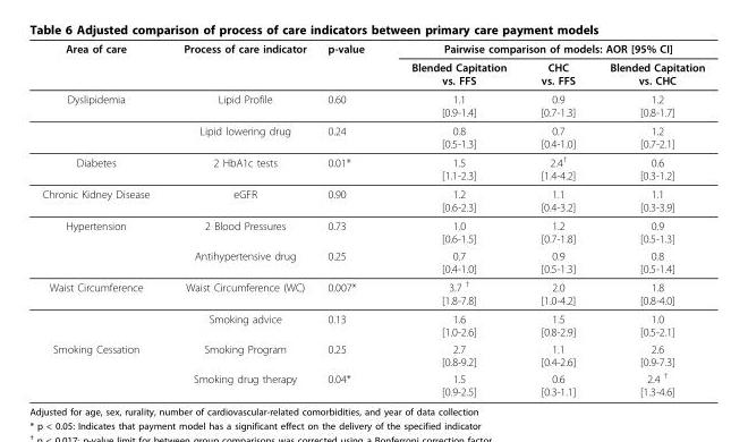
<table><thead><tr><td rowspan="2">Area of care</td><td rowspan="2">Process of care indicator</td><td rowspan="2">p-value</td><td colspan="3">Pairwise comparison of models: AOR [95% CI]</td></tr><tr><td>Blended Capitation vs. FFS</td><td>CHC vs. FFS</td><td>Blended Capitation vs. CHC</td></tr></thead><tbody><tr><td rowspan="2">Dyslipidemia</td><td>Lipid Profile</td><td>0.60</td><td>1.1 [0.9-1.4]</td><td>0.9 [0.7-1.3]</td><td>1.2 [0.8-1.7]</td></tr><tr><td>Lipid lowering drug</td><td>0.24</td><td>0.8 [0.5-1.3]</td><td>0.7 [0.4-1.0]</td><td>1.2 [0.7-2.1]</td></tr><tr><td>Diabetes</td><td>2 HbA1c tests</td><td>0.01*</td><td>1.5 [1.1-2.3]</td><td>2.4<sup>†</sup> [1.4-4.2]</td><td>0.6 [0.3-1.2]</td></tr><tr><td>Chronic Kidney Disease</td><td>eGFR</td><td>0.90</td><td>1.2 [0.6-2.3]</td><td>1.1 [0.4-3.2]</td><td>1.1 [0.3-3.9]</td></tr><tr><td rowspan="2">Hypertension</td><td>2 Blood Pressures</td><td>0.73</td><td>1.0 [0.6-1.5]</td><td>1.2 [0.7-1.8]</td><td>0.9 [0.5-1.3]</td></tr><tr><td>Antihypertensive drug</td><td>0.25</td><td>0.7 [0.4-1.0]</td><td>0.9 [0.5-1.3]</td><td>0.8 [0.5-1.4]</td></tr><tr><td rowspan="2">Waist Circumference</td><td>Waist Circumference (WC)</td><td>0.007*</td><td>3.7 <sup>†</sup> [1.8-7.8]</td><td>2.0 [1.0-4.2]</td><td>1.8 [0.8-4.0]</td></tr><tr><td>Smoking advice</td><td>0.13</td><td>1.6 [1.0-2.6]</td><td>1.5 [0.8-2.9]</td><td>1.0 [0.5-2.1]</td></tr><tr><td rowspan="2">Smoking Cessation</td><td>Smoking Program</td><td>0.25</td><td>2.7 [0.8-9.2]</td><td>1.1 [0.4-2.6]</td><td>2.6 [0.9-7.3]</td></tr><tr><td>Smoking drug therapy</td><td>0.04*</td><td>1.5 [0.9-2.5]</td><td>0.6 [0.3-1.1]</td><td>2.4 <sup>†</sup> [1.3-4.6]</td></tr></tbody></table>